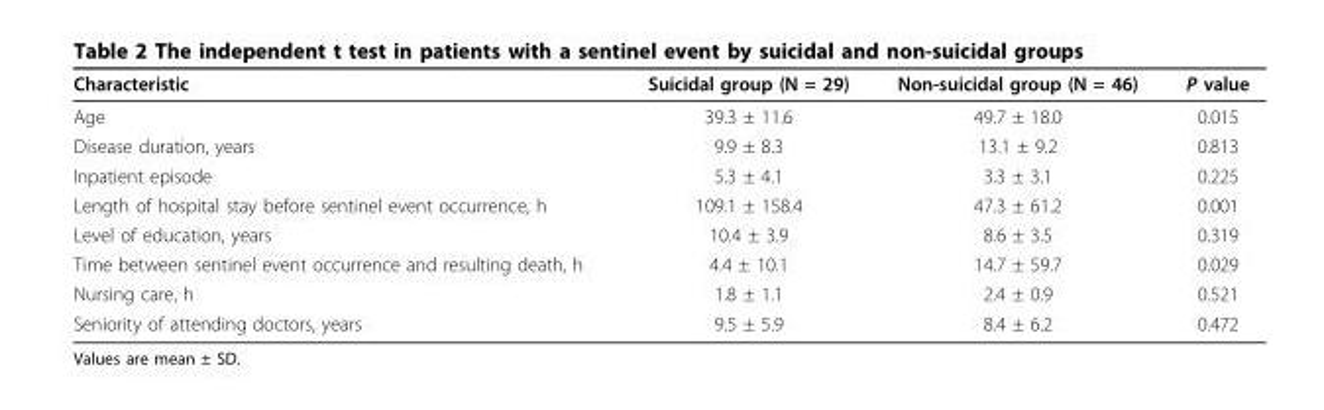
<table><thead><tr><td>Characteristic</td><td>Suicidal group (N = 29)</td><td>Non-suicidal group (N = 46)</td><td>P value</td></tr></thead><tbody><tr><td>Age</td><td>39.3 ± 11.6</td><td>49.7 ± 18.0</td><td>0.015</td></tr><tr><td>Disease duration, years</td><td>9.9 ± 8.3</td><td>13.1 ± 9.2</td><td>0.813</td></tr><tr><td>Inpatient episode</td><td>5.3 ± 4.1</td><td>3.3 ± 3.1</td><td>0.225</td></tr><tr><td>Length of hospital stay before sentinel event occurrence, h</td><td>109.1 ± 158.4</td><td>47.3 ± 61.2</td><td>0.001</td></tr><tr><td>Level of education, years</td><td>10.4 ± 3.9</td><td>8.6 ± 3.5</td><td>0.319</td></tr><tr><td>Time between sentinel event occurrence and resulting death, h</td><td>4.4 ± 10.1</td><td>14.7 ± 59.7</td><td>0.029</td></tr><tr><td>Nursing care, h</td><td>1.8 ± 1.1</td><td>2.4 ± 0.9</td><td>0.521</td></tr><tr><td>Seniority of attending doctors, years</td><td>9.5 ± 5.9</td><td>8.4 ± 6.2</td><td>0.472</td></tr></tbody></table>